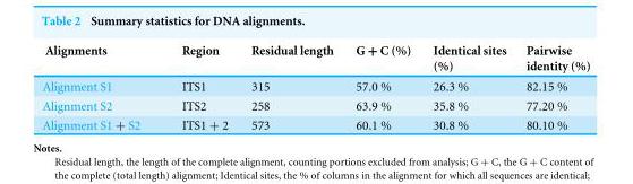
<table><thead><tr><td>Alignments</td><td>Region</td><td>Residual length</td><td>G + C (%)</td><td>Identical sites (%)</td><td>Pairwise identity (%)</td></tr></thead><tbody><tr><td>Alignment S1</td><td>ITS1</td><td>315</td><td>57.0 %</td><td>26.3 %</td><td>82.15 %</td></tr><tr><td>Alignment S2</td><td>ITS2</td><td>258</td><td>63.9 %</td><td>35.8 %</td><td>77.20 %</td></tr><tr><td>Alignment S1 + S2</td><td>ITS1 + 2</td><td>573</td><td>60.1 %</td><td>30.8 %</td><td>80.10 %</td></tr></tbody></table>